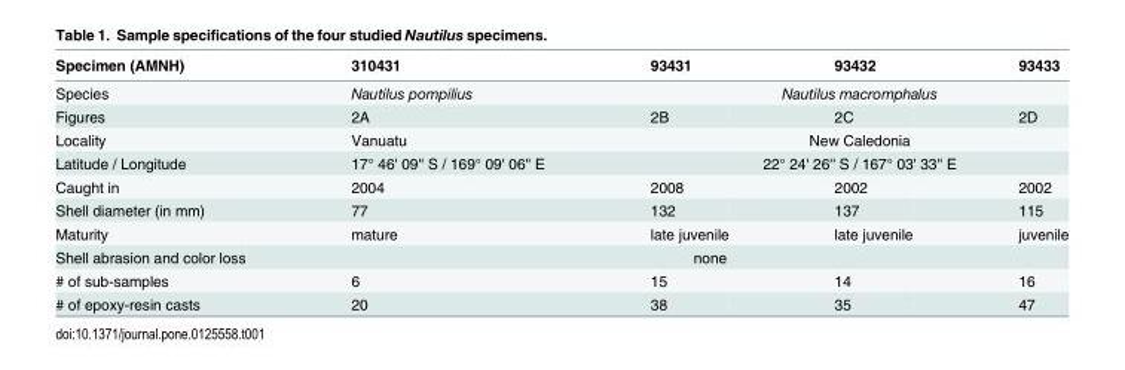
<table><thead><tr><td>Specimen (AMNH)</td><td>310431</td><td>93431</td><td>93432</td><td>93433</td></tr></thead><tbody><tr><td>Species</td><td>Nautilus pompilius</td><td colspan="3">Nautilus macromphalus</td></tr><tr><td>Figures</td><td>2A</td><td>2B</td><td>2C</td><td>2D</td></tr><tr><td>Locality</td><td>Vanuatu</td><td colspan="3">New Caledonia</td></tr><tr><td>Latitude / Longitude</td><td>17° 46&#x27; 09&#x27;&#x27; S / 169° 09&#x27; 06&#x27;&#x27; E</td><td colspan="3">22° 24&#x27; 26&#x27;&#x27; S / 167° 03&#x27; 33&#x27;&#x27; E</td></tr><tr><td>Caught in</td><td>2004</td><td>2008</td><td>2002</td><td>2002</td></tr><tr><td>Shell diameter (in mm)</td><td>77</td><td>132</td><td>137</td><td>115</td></tr><tr><td>Maturity</td><td>mature</td><td>late juvenile</td><td>late juvenile</td><td>juvenile</td></tr><tr><td>Shell abrasion and color loss</td><td colspan="4">none</td></tr><tr><td># of sub-samples</td><td>6</td><td>15</td><td>14</td><td>16</td></tr><tr><td># of epoxy-resin casts</td><td>20</td><td>38</td><td>35</td><td>47</td></tr></tbody></table>